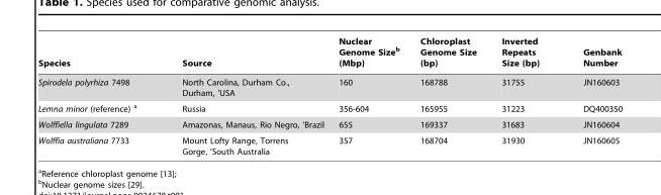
<table><thead><tr><td>Species</td><td>Source</td><td>Nuclear Genome Size<sup>b</sup> (Mbp)</td><td>Chloroplast Genome Size (bp)</td><td>Inverted Repeats Size (bp)</td><td>Genbank Number</td></tr></thead><tbody><tr><td>Spirodela polyrhiza 7498</td><td>North Carolina, Durham Co., Durham, ’USA</td><td>160</td><td>168788</td><td>31755</td><td>JN160603</td></tr><tr><td>Lemna minor (reference) a</td><td>Russia</td><td>356-604</td><td>165955</td><td>31223</td><td>DQ400350</td></tr><tr><td>Wolffiella lingulata 7289</td><td>Amazonas, Manaus, Rio Negro, ’Brazil</td><td>655</td><td>169337</td><td>31683</td><td>JN160604</td></tr><tr><td>Wolffia australiana 7733</td><td>Mount Lofty Range, Torrens Gorge, ’South Australia</td><td>357</td><td>168704</td><td>31930</td><td>JN160605</td></tr></tbody></table>